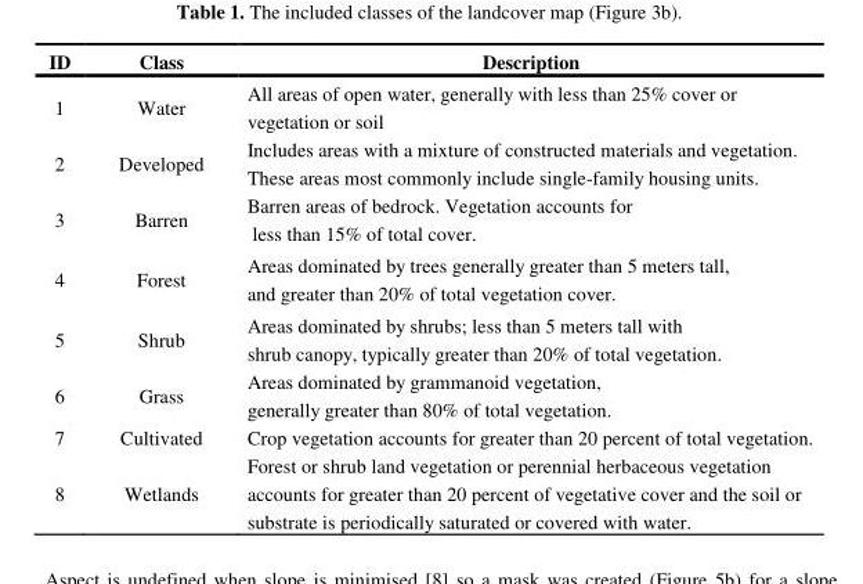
<table><thead><tr><td>ID</td><td>Class</td><td>Description</td></tr></thead><tbody><tr><td>1</td><td>Water</td><td>All areas of open water, generally with less than 25% cover or vegetation or soil</td></tr><tr><td>2</td><td>Developed</td><td>Includes areas with a mixture of constructed materials and vegetation. These areas most commonly include single-family housing units.</td></tr><tr><td>3</td><td>Barren</td><td>Barren areas of bedrock. Vegetation accounts for less than 15% of total cover.</td></tr><tr><td>4</td><td>Forest</td><td>Areas dominated by trees generally greater than 5 meters tall, and greater than 20% of total vegetation cover.</td></tr><tr><td>5</td><td>Shrub</td><td>Areas dominated by shrubs; less than 5 meters tall with shrub canopy, typically greater than 20% of total vegetation.</td></tr><tr><td>6</td><td>Grass</td><td>Areas dominated by grammanoid vegetation, generally greater than 80% of total vegetation.</td></tr><tr><td>7</td><td>Cultivated</td><td>Crop vegetation accounts for greater than 20 percent of total vegetation. Forest or shrub land vegetation or perennial herbaceous vegetation</td></tr><tr><td>8</td><td>Wetlands</td><td>accounts for greater than 20 percent of vegetative cover and the soil or substrate is periodically saturated or covered with water.</td></tr></tbody></table>